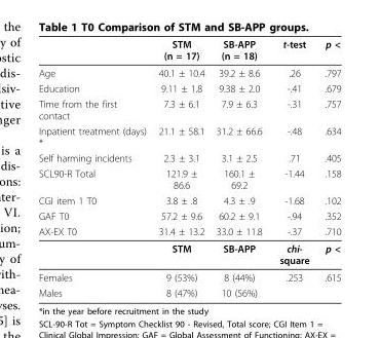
<table><thead><tr><td></td><td>STM (n = 17)</td><td>SB-APP (n = 18)</td><td>t-test</td><td>p &lt;</td></tr></thead><tbody><tr><td>Age</td><td>40.1 ± 10.4</td><td>39.2 ± 8.6</td><td>.26</td><td>.797</td></tr><tr><td>Education</td><td>9.11 ± 1.8</td><td>9.38 ± 2.0</td><td>-.41</td><td>.679</td></tr><tr><td>Time from the first contact</td><td>7.3 ± 6.1</td><td>7.9 ± 6.3</td><td>-.31</td><td>.757</td></tr><tr><td>Inpatient treatment (days) *</td><td>21.1 ± 58.1</td><td>31.2 ± 66.6</td><td>-.48</td><td>.634</td></tr><tr><td>Self harming incidents</td><td>2.3 ± 3.1</td><td>3.1 ± 2.5</td><td>.71</td><td>.405</td></tr><tr><td>SCL90-R Total</td><td>121.9 ± 86.6</td><td>160.1 ± 69.2</td><td>-1.44</td><td>.158</td></tr><tr><td>CGI item 1 T0</td><td>3.8 ± .8</td><td>4.3 ± .9</td><td>-1.68</td><td>.102</td></tr><tr><td>GAF T0</td><td>57.2 ± 9.6</td><td>60.2 ± 9.1</td><td>-.94</td><td>.352</td></tr><tr><td rowspan="2">AX-EX T0</td><td>31.4 ± 13.2</td><td>33.0 ± 11.8</td><td>-.37</td><td>.710</td></tr><tr><td>STM</td><td>SB-APP</td><td>chi- square</td><td>p &lt;</td></tr><tr><td>Females</td><td>9 (53%)</td><td>8 (44%)</td><td>.253</td><td>.615</td></tr><tr><td>Males</td><td>8 (47%)</td><td>10 (56%)</td><td></td><td></td></tr></tbody></table>